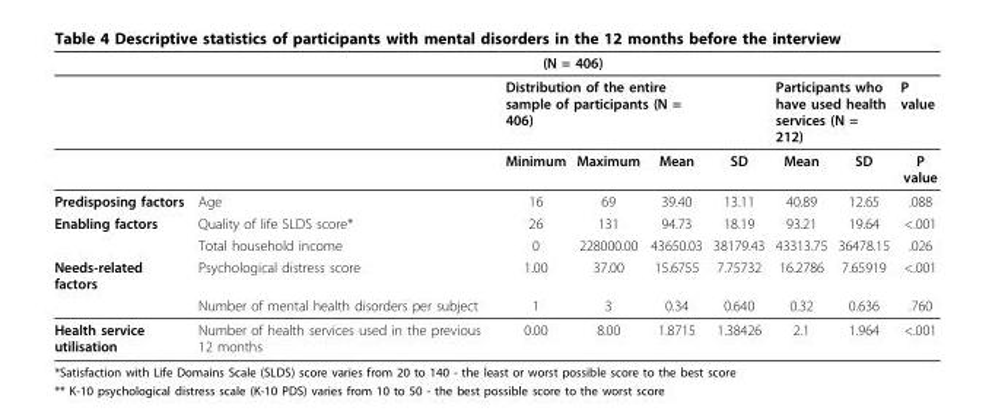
<table><thead><tr><td rowspan="3"></td><td rowspan="3"></td><td colspan="2">(N = 406)</td><td></td><td rowspan="3">SD</td><td></td><td></td><td rowspan="3">P value P value</td></tr><tr><td colspan="3">Distribution of the entire sample of participants (N = 406)</td><td colspan="2">Participants who have used health services (N = 212)</td></tr><tr><td>Minimum</td><td>Maximum</td><td>Mean</td><td>Mean</td><td>SD</td></tr></thead><tbody><tr><td>Predisposing factors</td><td>Age</td><td>16</td><td>69</td><td>39.40</td><td>13.11</td><td>40.89</td><td>12.65</td><td>.088</td></tr><tr><td rowspan="2">Enabling factors</td><td>Quality of life SLDS score*</td><td>26</td><td>131</td><td>94.73</td><td>18.19</td><td>93.21</td><td>19.64</td><td>&lt;.001</td></tr><tr><td>Total household income</td><td>0</td><td>228000.00</td><td>43650.03</td><td>38179.43</td><td>43313.75</td><td>36478.15</td><td>.026</td></tr><tr><td rowspan="2">Needs-related factors</td><td>Psychological distress score</td><td>1.00</td><td>37.00</td><td>15.6755</td><td>7.75732</td><td>16.2786</td><td>7.65919</td><td>&lt;.001</td></tr><tr><td>Number of mental health disorders per subject</td><td>1</td><td>3</td><td>0.34</td><td>0.640</td><td>0.32</td><td>0.636</td><td>.760</td></tr><tr><td>Health service utilisation</td><td>Number of health services used in the previous 12 months</td><td>0.00</td><td>8.00</td><td>1.8715</td><td>1.38426</td><td>2.1</td><td>1.964</td><td>&lt;.001</td></tr></tbody></table>